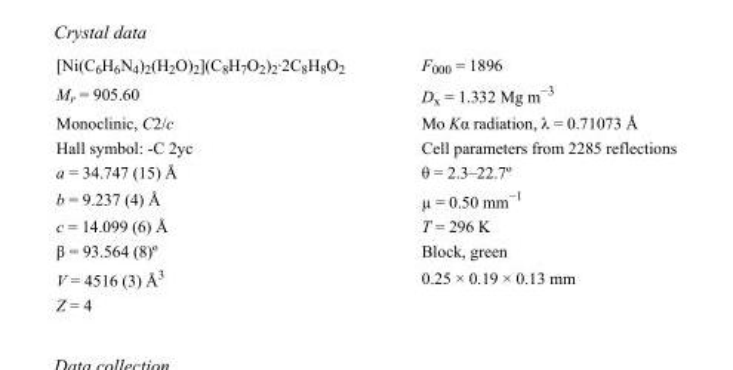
<table><tbody><tr><td>[Ni(C<sub>6</sub>H<sub>6</sub>N<sub>4</sub>)<sub>2</sub>(H<sub>2</sub>O)<sub>2</sub>](C<sub>8</sub>H<sub>7</sub>O<sub>2</sub>)<sub>2</sub>·2C<sub>8</sub>H<sub>8</sub>O<sub>2</sub></td><td>F000 = 1896</td></tr><tr><td>M<sub>r</sub> = 905.60</td><td>D<sub>x</sub> = 1.332 Mg m<sup>−3</sup></td></tr><tr><td>Monoclinic, C2/c</td><td>Mo Kα radiation, λ = 0.71073 Å</td></tr><tr><td>Hall symbol: -C 2yc</td><td>Cell parameters from 2285 reflections</td></tr><tr><td>a = 34.747 (15) Å</td><td>θ = 2.3–22.7º</td></tr><tr><td>b = 9.237 (4) Å</td><td>µ = 0.50 mm<sup>−1</sup></td></tr><tr><td>c = 14.099 (6) Å</td><td>T = 296 K</td></tr><tr><td>β = 93.564 (8)º</td><td>Block, green</td></tr><tr><td>V = 4516 (3) Å<sup>3</sup></td><td>0.25 × 0.19 × 0.13 mm</td></tr><tr><td>Z = 4</td><td></td></tr></tbody></table>